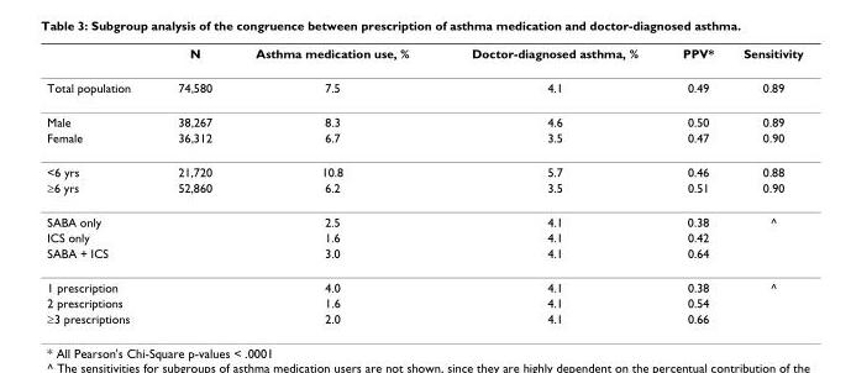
<table><thead><tr><td></td><td>N</td><td>Asthma medication use, %</td><td>Doctor-diagnosed asthma, %</td><td>PPV*</td><td>Sensitivity</td></tr></thead><tbody><tr><td>Total population</td><td>74,580</td><td>7.5</td><td>4.1</td><td>0.49</td><td>0.89</td></tr><tr><td>Male</td><td>38,267</td><td>8.3</td><td>4.6</td><td>0.50</td><td>0.89</td></tr><tr><td>Female</td><td>36,312</td><td>6.7</td><td>3.5</td><td>0.47</td><td>0.90</td></tr><tr><td>&lt;6 yrs</td><td>21,720</td><td>10.8</td><td>5.7</td><td>0.46</td><td>0.88</td></tr><tr><td>≥6 yrs</td><td>52,860</td><td>6.2</td><td>3.5</td><td>0.51</td><td>0.90</td></tr><tr><td>SABA only</td><td></td><td>2.5</td><td>4.1</td><td>0.38</td><td>^</td></tr><tr><td>ICS only</td><td></td><td>1.6</td><td>4.1</td><td>0.42</td><td></td></tr><tr><td>SABA + ICS</td><td></td><td>3.0</td><td>4.1</td><td>0.64</td><td></td></tr><tr><td>1 prescription</td><td></td><td>4.0</td><td>4.1</td><td>0.38</td><td>^</td></tr><tr><td>2 prescriptions</td><td></td><td>1.6</td><td>4.1</td><td>0.54</td><td></td></tr><tr><td>≥3 prescriptions</td><td></td><td>2.0</td><td>4.1</td><td>0.66</td><td></td></tr></tbody></table>